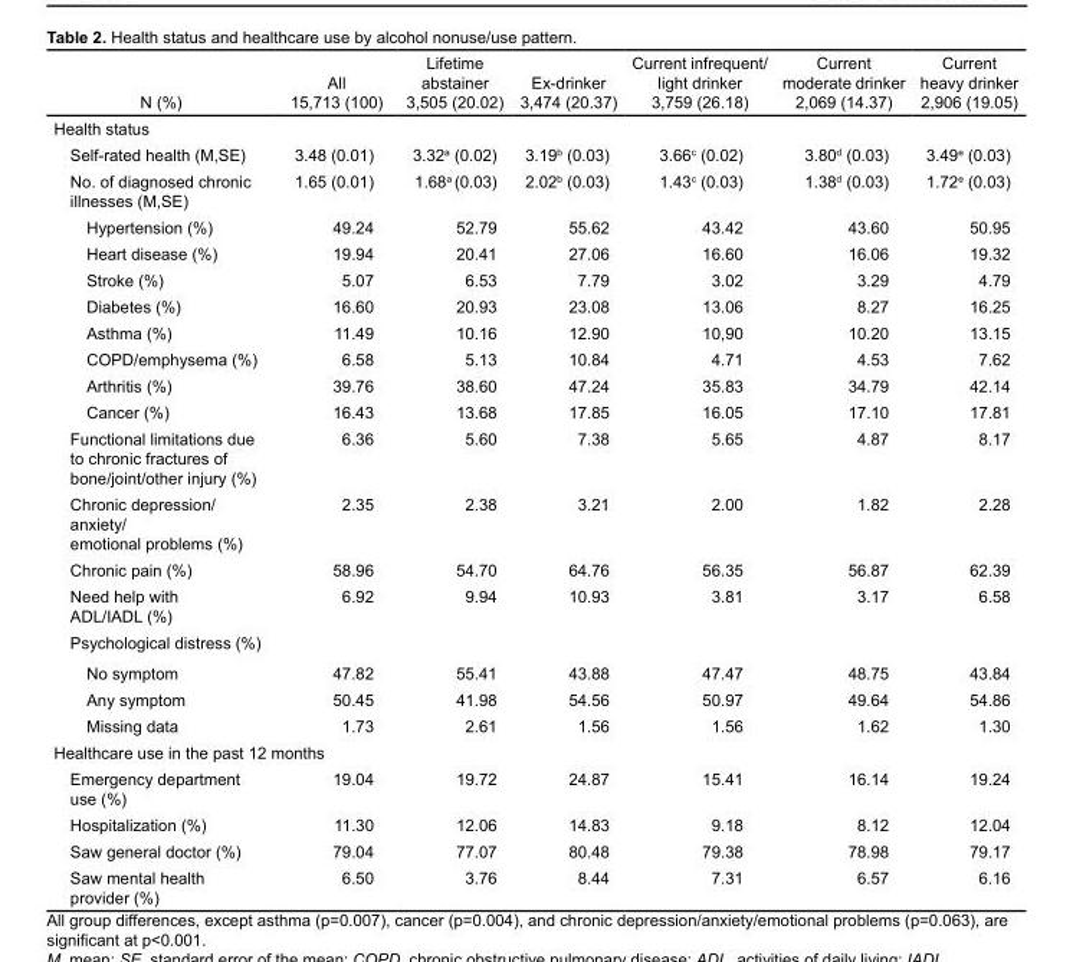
<table><thead><tr><td>N (%)</td><td>All 15,713 (100)</td><td>Lifetime abstainer 3,505 (20.02)</td><td>Ex-drinker 3,474 (20.37)</td><td>Current infrequent/ light drinker 3,759 (26.18)</td><td>Current moderate drinker 2,069 (14.37)</td><td>Current heavy drinker 2,906 (19.05)</td></tr></thead><tbody><tr><td colspan="7">Health status</td></tr><tr><td>Self-rated health (M,SE)</td><td>3.48 (0.01)</td><td>3.32<sup>a</sup> (0.02)</td><td>3.19<sup>b</sup> (0.03)</td><td>3.66<sup>c</sup> (0.02)</td><td>3.80<sup>d</sup> (0.03)</td><td>3.49<sup>e</sup> (0.03)</td></tr><tr><td>No. of diagnosed chronic illnesses (M,SE)</td><td>1.65 (0.01)</td><td>1.68<sup>a</sup> (0.03)</td><td>2.02<sup>b</sup> (0.03)</td><td>1.43<sup>c</sup> (0.03)</td><td>1.38<sup>d</sup> (0.03)</td><td>1.72<sup>e</sup> (0.03)</td></tr><tr><td>Hypertension (%)</td><td>49.24</td><td>52.79</td><td>55.62</td><td>43.42</td><td>43.60</td><td>50.95</td></tr><tr><td>Heart disease (%)</td><td>19.94</td><td>20.41</td><td>27.06</td><td>16.60</td><td>16.06</td><td>19.32</td></tr><tr><td>Stroke (%)</td><td>5.07</td><td>6.53</td><td>7.79</td><td>3.02</td><td>3.29</td><td>4.79</td></tr><tr><td>Diabetes (%)</td><td>16.60</td><td>20.93</td><td>23.08</td><td>13.06</td><td>8.27</td><td>16.25</td></tr><tr><td>Asthma (%)</td><td>11.49</td><td>10.16</td><td>12.90</td><td>10,90</td><td>10.20</td><td>13.15</td></tr><tr><td>COPD/emphysema (%)</td><td>6.58</td><td>5.13</td><td>10.84</td><td>4.71</td><td>4.53</td><td>7.62</td></tr><tr><td>Arthritis (%)</td><td>39.76</td><td>38.60</td><td>47.24</td><td>35.83</td><td>34.79</td><td>42.14</td></tr><tr><td>Cancer (%)</td><td>16.43</td><td>13.68</td><td>17.85</td><td>16.05</td><td>17.10</td><td>17.81</td></tr><tr><td>Functional limitations due to chronic fractures of bone/joint/other injury (%)</td><td>6.36</td><td>5.60</td><td>7.38</td><td>5.65</td><td>4.87</td><td>8.17</td></tr><tr><td>Chronic depression/ anxiety/ emotional problems (%)</td><td>2.35</td><td>2.38</td><td>3.21</td><td>2.00</td><td>1.82</td><td>2.28</td></tr><tr><td>Chronic pain (%)</td><td>58.96</td><td>54.70</td><td>64.76</td><td>56.35</td><td>56.87</td><td>62.39</td></tr><tr><td>Need help with ADL/IADL (%)</td><td>6.92</td><td>9.94</td><td>10.93</td><td>3.81</td><td>3.17</td><td>6.58</td></tr><tr><td colspan="7">Psychological distress (%)</td></tr><tr><td>No symptom</td><td>47.82</td><td>55.41</td><td>43.88</td><td>47.47</td><td>48.75</td><td>43.84</td></tr><tr><td>Any symptom</td><td>50.45</td><td>41.98</td><td>54.56</td><td>50.97</td><td>49.64</td><td>54.86</td></tr><tr><td>Missing data</td><td>1.73</td><td>2.61</td><td>1.56</td><td>1.56</td><td>1.62</td><td>1.30</td></tr><tr><td colspan="7">Healthcare use in the past 12 months</td></tr><tr><td>Emergency department use (%)</td><td>19.04</td><td>19.72</td><td>24.87</td><td>15.41</td><td>16.14</td><td>19.24</td></tr><tr><td>Hospitalization (%)</td><td>11.30</td><td>12.06</td><td>14.83</td><td>9.18</td><td>8.12</td><td>12.04</td></tr><tr><td>Saw general doctor (%)</td><td>79.04</td><td>77.07</td><td>80.48</td><td>79.38</td><td>78.98</td><td>79.17</td></tr><tr><td>Saw mental health provider (%)</td><td>6.50</td><td>3.76</td><td>8.44</td><td>7.31</td><td>6.57</td><td>6.16</td></tr></tbody></table>